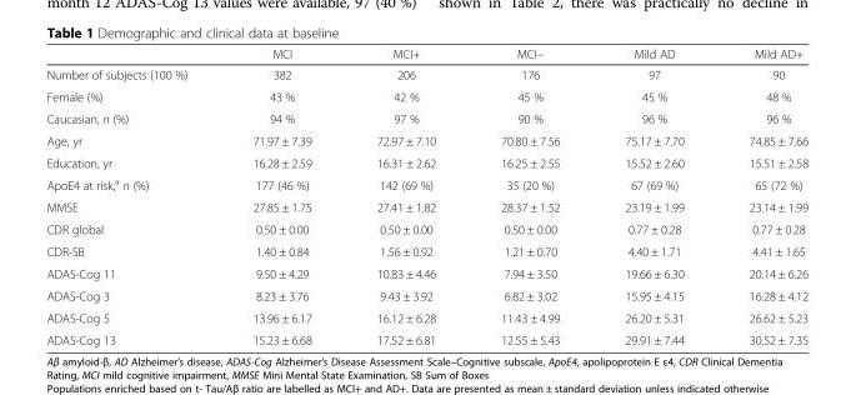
<table><thead><tr><td></td><td>MCI</td><td>MCI+</td><td>MCI−</td><td>Mild AD</td><td>Mild AD+</td></tr></thead><tbody><tr><td>Number of subjects (100 %)</td><td>382</td><td>206</td><td>176</td><td>97</td><td>90</td></tr><tr><td>Female (%)</td><td>43 %</td><td>42 %</td><td>45 %</td><td>45 %</td><td>48 %</td></tr><tr><td>Caucasian, n (%)</td><td>94 %</td><td>97 %</td><td>90 %</td><td>96 %</td><td>96 %</td></tr><tr><td>Age, yr</td><td>71.97 ± 7.39</td><td>72.97 ± 7.10</td><td>70.80 ± 7.56</td><td>75.17 ± 7.70</td><td>74.85 ± 7.66</td></tr><tr><td>Education, yr</td><td>16.28 ± 2.59</td><td>16.31 ± 2.62</td><td>16.25 ± 2.55</td><td>15.52 ± 2.60</td><td>15.51 ± 2.58</td></tr><tr><td>ApoE4 at risk,<sup>a</sup> n (%)</td><td>177 (46 %)</td><td>142 (69 %)</td><td>35 (20 %)</td><td>67 (69 %)</td><td>65 (72 %)</td></tr><tr><td>MMSE</td><td>27.85 ± 1.75</td><td>27.41 ± 1.82</td><td>28.37 ± 1.52</td><td>23.19 ± 1.99</td><td>23.14 ± 1.99</td></tr><tr><td>CDR global</td><td>0.50 ± 0.00</td><td>0.50 ± 0.00</td><td>0.50 ± 0.00</td><td>0.77 ± 0.28</td><td>0.77 ± 0.28</td></tr><tr><td>CDR-SB</td><td>1.40 ± 0.84</td><td>1.56 ± 0.92</td><td>1.21 ± 0.70</td><td>4.40 ± 1.71</td><td>4.41 ± 1.65</td></tr><tr><td>ADAS-Cog 11</td><td>9.50 ± 4.29</td><td>10.83 ± 4.46</td><td>7.94 ± 3.50</td><td>19.66 ± 6.30</td><td>20.14 ± 6.26</td></tr><tr><td>ADAS-Cog 3</td><td>8.23 ± 3.76</td><td>9.43 ± 3.92</td><td>6.82 ± 3.02</td><td>15.95 ± 4.15</td><td>16.28 ± 4.12</td></tr><tr><td>ADAS-Cog 5</td><td>13.96 ± 6.17</td><td>16.12 ± 6.28</td><td>11.43 ± 4.99</td><td>26.20 ± 5.31</td><td>26.62 ± 5.23</td></tr><tr><td>ADAS-Cog 13</td><td>15.23 ± 6.68</td><td>17.52 ± 6.81</td><td>12.55 ± 5.43</td><td>29.91 ± 7.44</td><td>30.52 ± 7.35</td></tr></tbody></table>